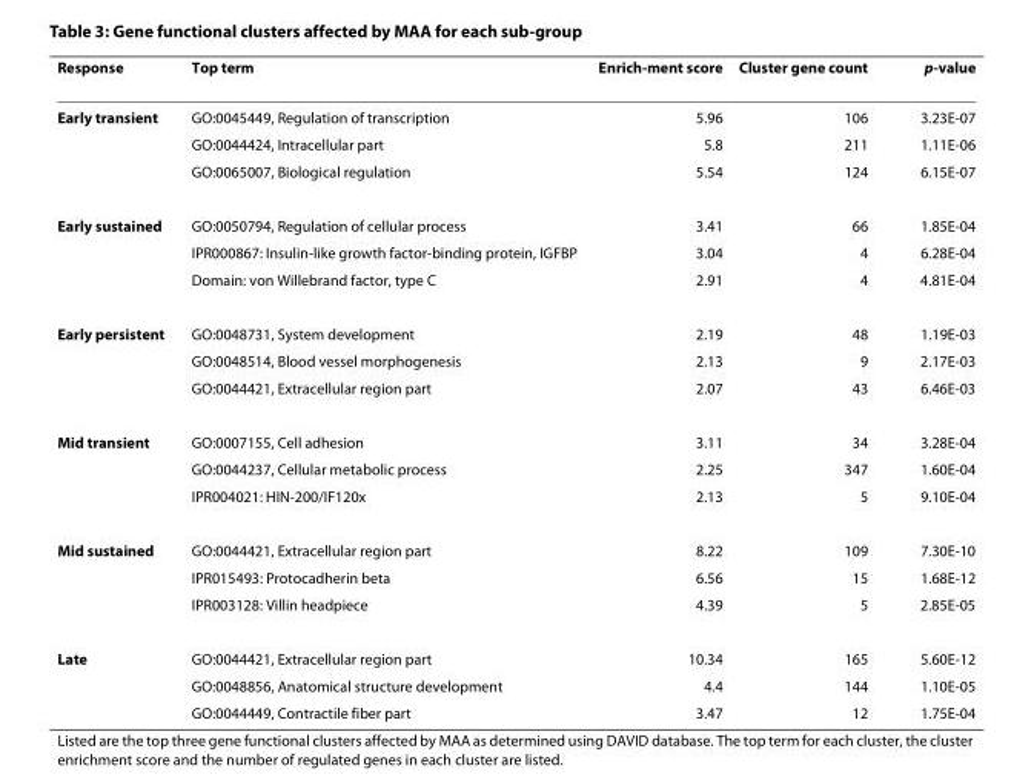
<table><thead><tr><td>Response</td><td>Top term</td><td>Enrich-ment score</td><td>Cluster gene count</td><td>p-value</td></tr></thead><tbody><tr><td rowspan="3">Early transient</td><td>GO:0045449, Regulation of transcription</td><td>5.96</td><td>106</td><td>3.23E-07</td></tr><tr><td>GO:0044424, Intracellular part</td><td>5.8</td><td>211</td><td>1.11E-06</td></tr><tr><td>GO:0065007, Biological regulation</td><td>5.54</td><td>124</td><td>6.15E-07</td></tr><tr><td rowspan="3">Early sustained</td><td>GO:0050794, Regulation of cellular process</td><td>3.41</td><td>66</td><td>1.85E-04</td></tr><tr><td>IPR000867: Insulin-like growth factor-binding protein, IGFBP</td><td>3.04</td><td>4</td><td>6.28E-04</td></tr><tr><td>Domain: von Willebrand factor, type C</td><td>2.91</td><td>4</td><td>4.81E-04</td></tr><tr><td rowspan="3">Early persistent</td><td>GO:0048731, System development</td><td>2.19</td><td>48</td><td>1.19E-03</td></tr><tr><td>GO:0048514, Blood vessel morphogenesis</td><td>2.13</td><td>9</td><td>2.17E-03</td></tr><tr><td>GO:0044421, Extracellular region part</td><td>2.07</td><td>43</td><td>6.46E-03</td></tr><tr><td rowspan="3">Mid transient</td><td>GO:0007155, Cell adhesion</td><td>3.11</td><td>34</td><td>3.28E-04</td></tr><tr><td>GO:0044237, Cellular metabolic process</td><td>2.25</td><td>347</td><td>1.60E-04</td></tr><tr><td>IPR004021: HIN-200/IF120x</td><td>2.13</td><td>5</td><td>9.10E-04</td></tr><tr><td rowspan="3">Mid sustained</td><td>GO:0044421, Extracellular region part</td><td>8.22</td><td>109</td><td>7.30E-10</td></tr><tr><td>IPR015493: Protocadherin beta</td><td>6.56</td><td>15</td><td>1.68E-12</td></tr><tr><td>IPR003128: Villin headpiece</td><td>4.39</td><td>5</td><td>2.85E-05</td></tr><tr><td rowspan="3">Late</td><td>GO:0044421, Extracellular region part</td><td>10.34</td><td>165</td><td>5.60E-12</td></tr><tr><td>GO:0048856, Anatomical structure development</td><td>4.4</td><td>144</td><td>1.10E-05</td></tr><tr><td>GO:0044449, Contractile fiber part</td><td>3.47</td><td>12</td><td>1.75E-04</td></tr></tbody></table>